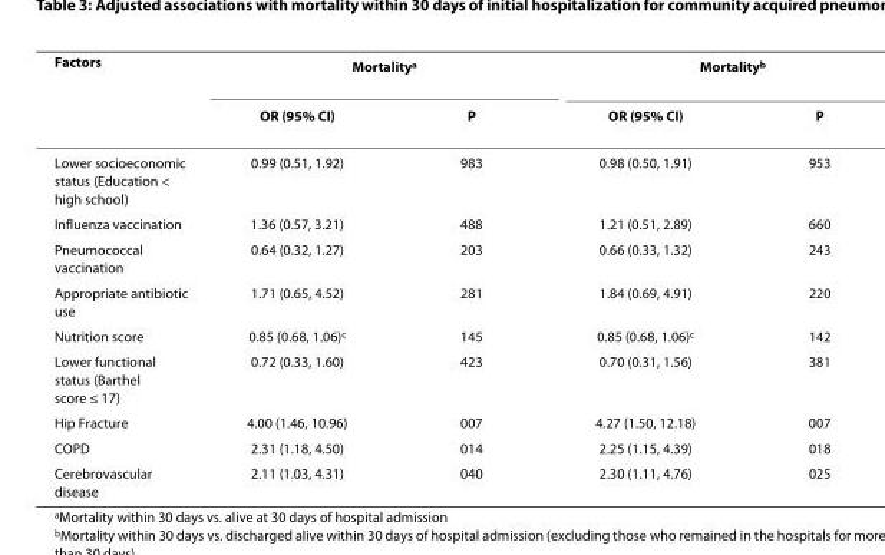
<table><thead><tr><td rowspan="2">Factors</td><td colspan="2">Mortality<sup>a</sup></td><td colspan="2">Mortality<sup>b</sup></td></tr><tr><td>OR (95% CI)</td><td>P</td><td>OR (95% CI)</td><td>P</td></tr></thead><tbody><tr><td>Lower socioeconomic status (Education &lt; high school)</td><td>0.99 (0.51, 1.92)</td><td>983</td><td>0.98 (0.50, 1.91)</td><td>953</td></tr><tr><td>Influenza vaccination</td><td>1.36 (0.57, 3.21)</td><td>488</td><td>1.21 (0.51, 2.89)</td><td>660</td></tr><tr><td>Pneumococcal vaccination</td><td>0.64 (0.32, 1.27)</td><td>203</td><td>0.66 (0.33, 1.32)</td><td>243</td></tr><tr><td>Appropriate antibiotic use</td><td>1.71 (0.65, 4.52)</td><td>281</td><td>1.84 (0.69, 4.91)</td><td>220</td></tr><tr><td>Nutrition score</td><td>0.85 (0.68, 1.06)<sup>c</sup></td><td>145</td><td>0.85 (0.68, 1.06)<sup>c</sup></td><td>142</td></tr><tr><td>Lower functional status (Barthel score ≤ 17)</td><td>0.72 (0.33, 1.60)</td><td>423</td><td>0.70 (0.31, 1.56)</td><td>381</td></tr><tr><td>Hip Fracture</td><td>4.00 (1.46, 10.96)</td><td>007</td><td>4.27 (1.50, 12.18)</td><td>007</td></tr><tr><td>COPD</td><td>2.31 (1.18, 4.50)</td><td>014</td><td>2.25 (1.15, 4.39)</td><td>018</td></tr><tr><td>Cerebrovascular disease</td><td>2.11 (1.03, 4.31)</td><td>040</td><td>2.30 (1.11, 4.76)</td><td>025</td></tr></tbody></table>